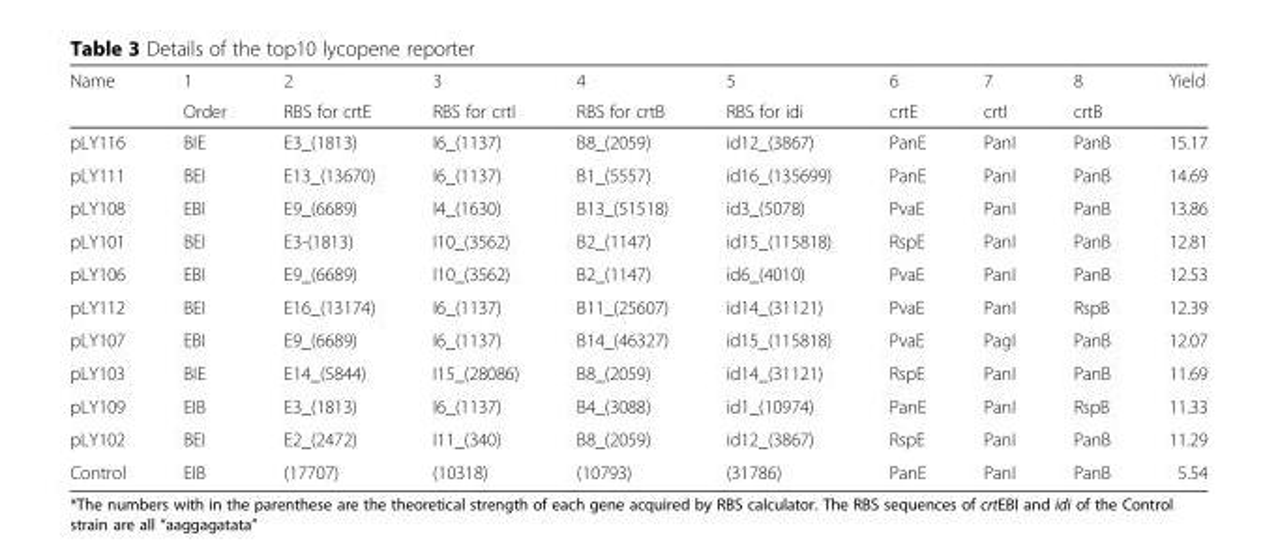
<table><thead><tr><td rowspan="2">Name</td><td rowspan="2">1 Order</td><td rowspan="2">2 RBS for crtE</td><td rowspan="2">3 RBS for crtI</td><td rowspan="2">4 RBS for crtB</td><td rowspan="2">5 RBS for idi</td><td rowspan="2">6 crtE</td><td rowspan="2">7 crtI</td><td rowspan="2">8 crtB</td><td rowspan="2">Yield</td></tr><tr></tr></thead><tbody><tr><td>pLY116</td><td>BIE</td><td>E3_(1813)</td><td>I6_(1137)</td><td>B8_(2059)</td><td>id12_(3867)</td><td>PanE</td><td>PanI</td><td>PanB</td><td>15.17</td></tr><tr><td>pLY111</td><td>BEI</td><td>E13_(13670)</td><td>I6_(1137)</td><td>B1_(5557)</td><td>id16_(135699)</td><td>PanE</td><td>PanI</td><td>PanB</td><td>14.69</td></tr><tr><td>pLY108</td><td>EBI</td><td>E9_(6689)</td><td>I4_(1630)</td><td>B13_(51518)</td><td>id3_(5078)</td><td>PvaE</td><td>PanI</td><td>PanB</td><td>13.86</td></tr><tr><td>pLY101</td><td>BEI</td><td>E3-(1813)</td><td>I10_(3562)</td><td>B2_(1147)</td><td>id15_(115818)</td><td>RspE</td><td>PanI</td><td>PanB</td><td>12.81</td></tr><tr><td>pLY106</td><td>EBI</td><td>E9_(6689)</td><td>I10_(3562)</td><td>B2_(1147)</td><td>id6_(4010)</td><td>PvaE</td><td>PanI</td><td>PanB</td><td>12.53</td></tr><tr><td>pLY112</td><td>BEI</td><td>E16_(13174)</td><td>I6_(1137)</td><td>B11_(25607)</td><td>id14_(31121)</td><td>PvaE</td><td>PanI</td><td>RspB</td><td>12.39</td></tr><tr><td>pLY107</td><td>EBI</td><td>E9_(6689)</td><td>I6_(1137)</td><td>B14_(46327)</td><td>id15_(115818)</td><td>PvaE</td><td>PagI</td><td>PanB</td><td>12.07</td></tr><tr><td>pLY103</td><td>BIE</td><td>E14_(5844)</td><td>I15_(28086)</td><td>B8_(2059)</td><td>id14_(31121)</td><td>RspE</td><td>PanI</td><td>PanB</td><td>11.69</td></tr><tr><td>pLY109</td><td>EIB</td><td>E3_(1813)</td><td>I6_(1137)</td><td>B4_(3088)</td><td>id1_(10974)</td><td>PanE</td><td>PanI</td><td>RspB</td><td>11.33</td></tr><tr><td>pLY102</td><td>BEI</td><td>E2_(2472)</td><td>I11_(340)</td><td>B8_(2059)</td><td>id12_(3867)</td><td>RspE</td><td>PanI</td><td>PanB</td><td>11.29</td></tr><tr><td>Control</td><td>EIB</td><td>(17707)</td><td>(10318)</td><td>(10793)</td><td>(31786)</td><td>PanE</td><td>PanI</td><td>PanB</td><td>5.54</td></tr></tbody></table>